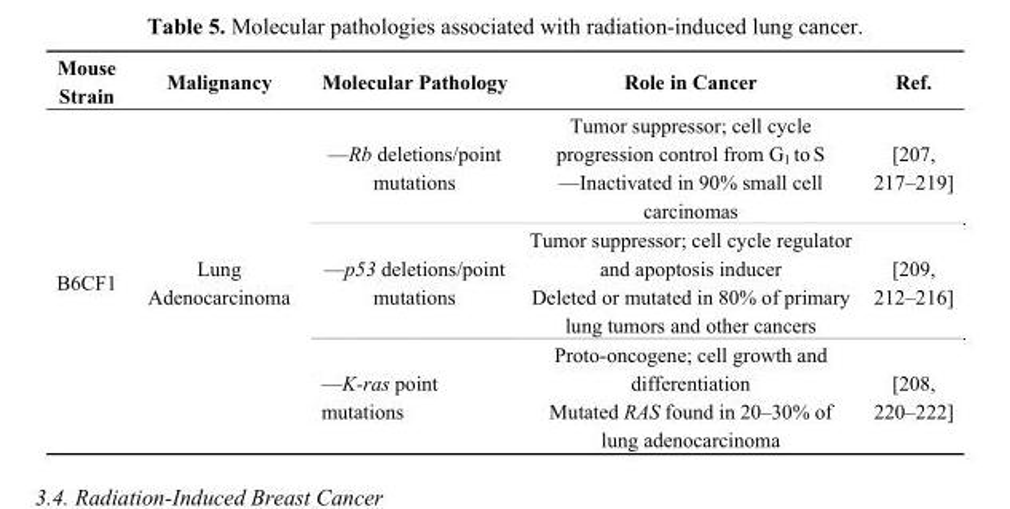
<table><thead><tr><td>Mouse Strain</td><td>Malignancy</td><td>Molecular Pathology</td><td>Role in Cancer</td><td>Ref.</td></tr></thead><tbody><tr><td rowspan="3">B6CF1</td><td rowspan="3">Lung Adenocarcinoma</td><td>—Rb deletions/point mutations</td><td>Tumor suppressor; cell cycle progression control from G<sub>1</sub> to S —Inactivated in 90% small cell carcinomas</td><td>[207, 217–219]</td></tr><tr><td>—p53 deletions/point mutations</td><td>Tumor suppressor; cell cycle regulator and apoptosis inducer Deleted or mutated in 80% of primary lung tumors and other cancers</td><td>[209, 212–216]</td></tr><tr><td>—K-ras point mutations</td><td>Proto-oncogene; cell growth and differentiation Mutated RAS found in 20–30% of lung adenocarcinoma</td><td>[208, 220–222]</td></tr></tbody></table>